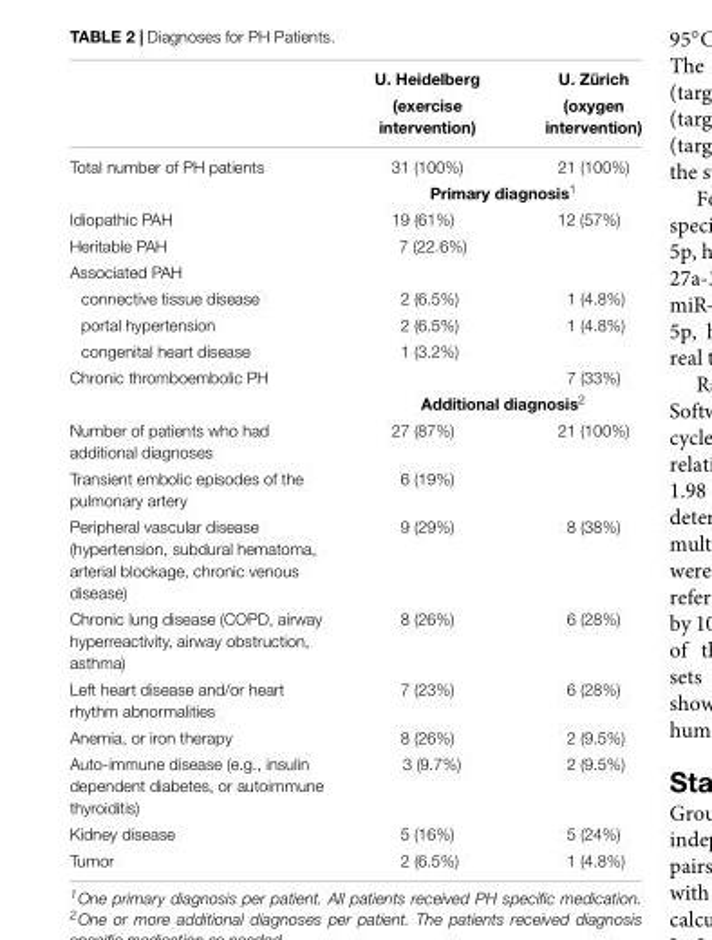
<table><thead><tr><td rowspan="2"></td><td rowspan="2">U. Heidelberg (exercise intervention)</td><td rowspan="2">U. Zürich (oxygen intervention)</td></tr><tr></tr></thead><tbody><tr><td rowspan="2">Total number of PH patients</td><td>31 (100%)</td><td>21 (100%)</td></tr><tr><td colspan="2">Primary diagnosis<sup>1</sup></td></tr><tr><td>Idiopathic PAH</td><td>19 (61%)</td><td>12 (57%)</td></tr><tr><td>Heritable PAH</td><td>7 (22.6%)</td><td></td></tr><tr><td colspan="3">Associated PAH</td></tr><tr><td>connective tissue disease</td><td>2 (6.5%)</td><td>1 (4.8%)</td></tr><tr><td>portal hypertension</td><td>2 (6.5%)</td><td>1 (4.8%)</td></tr><tr><td>congenital heart disease</td><td>1 (3.2%)</td><td></td></tr><tr><td rowspan="2">Chronic thromboembolic PH</td><td></td><td>7 (33%)</td></tr><tr><td colspan="2">Additional diagnosis<sup>2</sup></td></tr><tr><td>Number of patients who had additional diagnoses</td><td>27 (87%)</td><td>21 (100%)</td></tr><tr><td>Transient embolic episodes of the pulmonary artery</td><td>6 (19%)</td><td></td></tr><tr><td>Peripheral vascular disease (hypertension, subdural hematoma, arterial blockage, chronic venous disease)</td><td>9 (29%)</td><td>8 (38%)</td></tr><tr><td>Chronic lung disease (COPD, airway hyperreactivity, airway obstruction, asthma)</td><td>8 (26%)</td><td>6 (28%)</td></tr><tr><td>Left heart disease and/or heart rhythm abnormalities</td><td>7 (23%)</td><td>6 (28%)</td></tr><tr><td>Anemia, or iron therapy</td><td>8 (26%)</td><td>2 (9.5%)</td></tr><tr><td>Auto-immune disease (e.g., insulin dependent diabetes, or autoimmune thyroiditis)</td><td>3 (9.7%)</td><td>2 (9.5%)</td></tr><tr><td>Kidney disease</td><td>5 (16%)</td><td>5 (24%)</td></tr><tr><td>Tumor</td><td>2 (6.5%)</td><td>1 (4.8%)</td></tr></tbody></table>